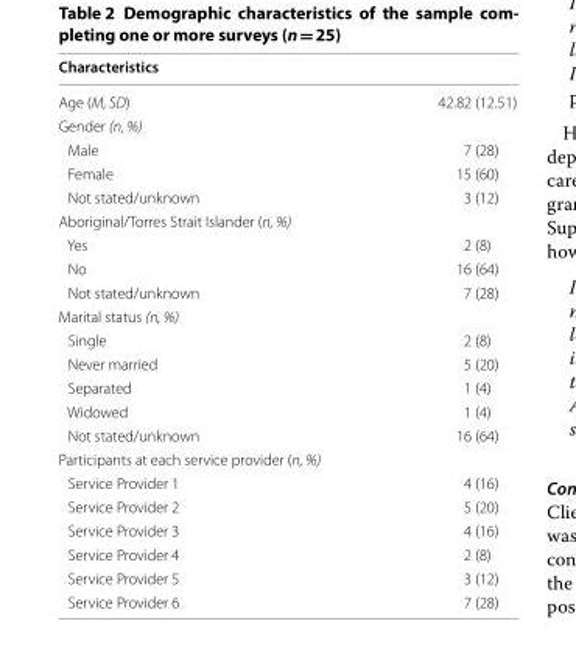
<table><thead><tr><td>Characteristics</td><td></td></tr></thead><tbody><tr><td>Age (M, SD)</td><td>42.82 (12.51)</td></tr><tr><td colspan="2">Gender (n, %)</td></tr><tr><td>Male</td><td>7 (28)</td></tr><tr><td>Female</td><td>15 (60)</td></tr><tr><td>Not stated/unknown</td><td>3 (12)</td></tr><tr><td colspan="2">Aboriginal/Torres Strait Islander (n, %)</td></tr><tr><td>Yes</td><td>2 (8)</td></tr><tr><td>No</td><td>16 (64)</td></tr><tr><td>Not stated/unknown</td><td>7 (28)</td></tr><tr><td colspan="2">Marital status (n, %)</td></tr><tr><td>Single</td><td>2 (8)</td></tr><tr><td>Never married</td><td>5 (20)</td></tr><tr><td>Separated</td><td>1 (4)</td></tr><tr><td>Widowed</td><td>1 (4)</td></tr><tr><td>Not stated/unknown</td><td>16 (64)</td></tr><tr><td colspan="2">Participants at each service provider (n, %)</td></tr><tr><td>Service Provider 1</td><td>4 (16)</td></tr><tr><td>Service Provider 2</td><td>5 (20)</td></tr><tr><td>Service Provider 3</td><td>4 (16)</td></tr><tr><td>Service Provider 4</td><td>2 (8)</td></tr><tr><td>Service Provider 5</td><td>3 (12)</td></tr><tr><td>Service Provider 6</td><td>7 (28)</td></tr></tbody></table>